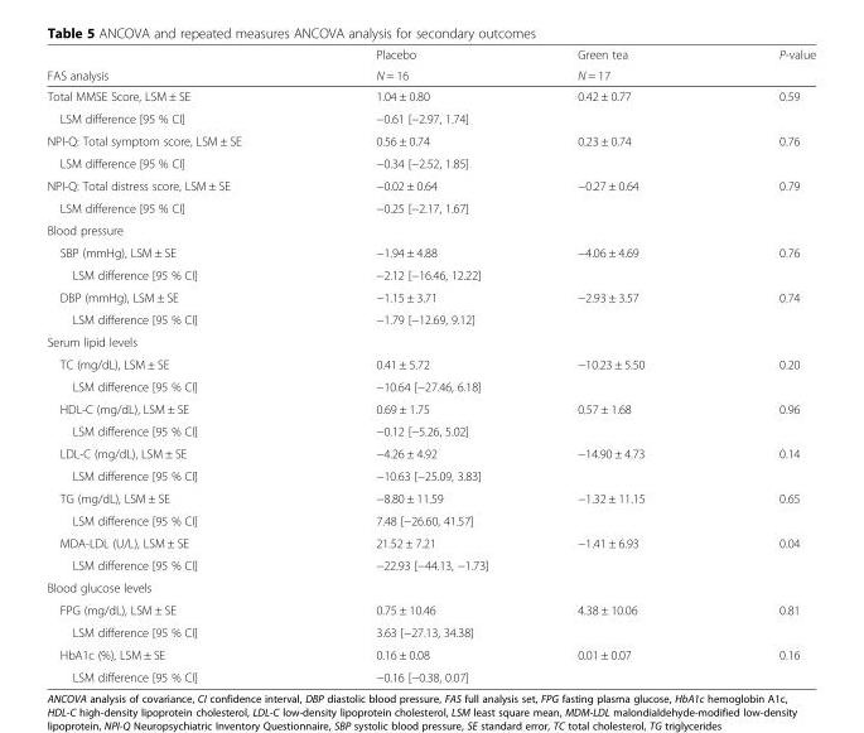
<table><thead><tr><td rowspan="2">FAS analysis</td><td rowspan="2">Placebo N = 16</td><td rowspan="2">Green tea N = 17</td><td rowspan="2">P-value</td></tr><tr></tr></thead><tbody><tr><td>Total MMSE Score, LSM ± SE</td><td>1.04 ± 0.80</td><td>0.42 ± 0.77</td><td rowspan="2">0.59</td></tr><tr><td>LSM difference [95 % CI]</td><td colspan="2">−0.61 [−2.97, 1.74]</td></tr><tr><td>NPI-Q: Total symptom score, LSM ± SE</td><td>0.56 ± 0.74</td><td>0.23 ± 0.74</td><td rowspan="2">0.76</td></tr><tr><td>LSM difference [95 % CI]</td><td colspan="2">−0.34 [−2.52, 1.85]</td></tr><tr><td>NPI-Q: Total distress score, LSM ± SE</td><td>−0.02 ± 0.64</td><td>−0.27 ± 0.64</td><td rowspan="2">0.79</td></tr><tr><td>LSM difference [95 % CI]</td><td colspan="2">−0.25 [−2.17, 1.67]</td></tr><tr><td colspan="4">Blood pressure</td></tr><tr><td>SBP (mmHg), LSM ± SE</td><td>−1.94 ± 4.88</td><td>−4.06 ± 4.69</td><td rowspan="2">0.76</td></tr><tr><td>LSM difference [95 % CI]</td><td colspan="2">−2.12 [−16.46, 12.22]</td></tr><tr><td>DBP (mmHg), LSM ± SE</td><td>−1.15 ± 3.71</td><td>−2.93 ± 3.57</td><td rowspan="2">0.74</td></tr><tr><td>LSM difference [95 % CI]</td><td colspan="2">−1.79 [−12.69, 9.12]</td></tr><tr><td colspan="4">Serum lipid levels</td></tr><tr><td>TC (mg/dL), LSM ± SE</td><td>0.41 ± 5.72</td><td>−10.23 ± 5.50</td><td rowspan="2">0.20</td></tr><tr><td>LSM difference [95 % CI]</td><td colspan="2">−10.64 [−27.46, 6.18]</td></tr><tr><td>HDL-C (mg/dL), LSM ± SE</td><td>0.69 ± 1.75</td><td>0.57 ± 1.68</td><td rowspan="2">0.96</td></tr><tr><td>LSM difference [95 % CI]</td><td colspan="2">−0.12 [−5.26, 5.02]</td></tr><tr><td>LDL-C (mg/dL), LSM ± SE</td><td>−4.26 ± 4.92</td><td>−14.90 ± 4.73</td><td rowspan="2">0.14</td></tr><tr><td>LSM difference [95 % CI]</td><td colspan="2">−10.63 [−25.09, 3.83]</td></tr><tr><td>TG (mg/dL), LSM ± SE</td><td>−8.80 ± 11.59</td><td>−1.32 ± 11.15</td><td rowspan="2">0.65</td></tr><tr><td>LSM difference [95 % CI]</td><td colspan="2">7.48 [−26.60, 41.57]</td></tr><tr><td>MDA-LDL (U/L), LSM ± SE</td><td>21.52 ± 7.21</td><td>−1.41 ± 6.93</td><td rowspan="2">0.04</td></tr><tr><td>LSM difference [95 % CI]</td><td colspan="2">−22.93 [−44.13, −1.73]</td></tr><tr><td colspan="4">Blood glucose levels</td></tr><tr><td>FPG (mg/dL), LSM ± SE</td><td>0.75 ± 10.46</td><td>4.38 ± 10.06</td><td rowspan="2">0.81</td></tr><tr><td>LSM difference [95 % CI]</td><td colspan="2">3.63 [−27.13, 34.38]</td></tr><tr><td>HbA1c (%), LSM ± SE</td><td>0.16 ± 0.08</td><td>0.01 ± 0.07</td><td rowspan="2">0.16</td></tr><tr><td>LSM difference [95 % CI]</td><td colspan="2">−0.16 [−0.38, 0.07]</td></tr></tbody></table>